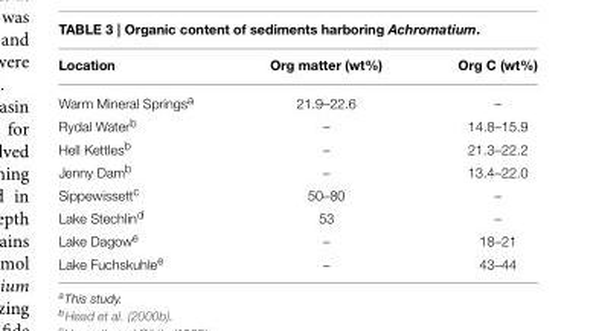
<table><thead><tr><td>Location</td><td>Org matter (wt%)</td><td>Org C (wt%)</td></tr></thead><tbody><tr><td>Warm Mineral Springs<sup>a</sup></td><td>21.9–22.6</td><td>–</td></tr><tr><td>Rydal Water<sup>b</sup></td><td>–</td><td>14.8–15.9</td></tr><tr><td>Hell Kettles<sup>b</sup></td><td>–</td><td>21.3–22.2</td></tr><tr><td>Jenny Dam<sup>b</sup></td><td>–</td><td>13.4–22.0</td></tr><tr><td>Sippewissett<sup>c</sup></td><td>50–80</td><td>–</td></tr><tr><td>Lake Stechlin<sup>d</sup></td><td>53</td><td>–</td></tr><tr><td>Lake Dagow<sup>e</sup></td><td>–</td><td>18–21</td></tr><tr><td>Lake Fuchskuhle<sup>e</sup></td><td>–</td><td>43–44</td></tr></tbody></table>